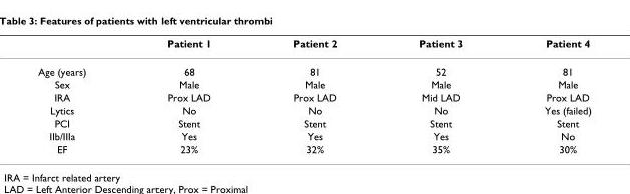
<table><thead><tr><td></td><td>Patient 1</td><td>Patient 2</td><td>Patient 3</td><td>Patient 4</td></tr></thead><tbody><tr><td>Age (years)</td><td>68</td><td>81</td><td>52</td><td>81</td></tr><tr><td>Sex</td><td>Male</td><td>Male</td><td>Male</td><td>Male</td></tr><tr><td>IRA</td><td>Prox LAD</td><td>Prox LAD</td><td>Mid LAD</td><td>Prox LAD</td></tr><tr><td>Lytics</td><td>No</td><td>No</td><td>No</td><td>Yes (failed)</td></tr><tr><td>PCI</td><td>Stent</td><td>Stent</td><td>Stent</td><td>Stent</td></tr><tr><td>IIb/IIIa</td><td>Yes</td><td>Yes</td><td>Yes</td><td>No</td></tr><tr><td>EF</td><td>23%</td><td>32%</td><td>35%</td><td>30%</td></tr></tbody></table>